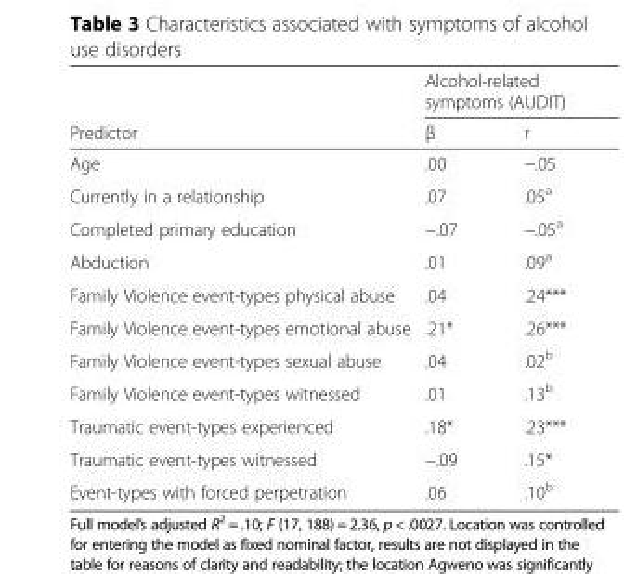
<table><thead><tr><td rowspan="2">Predictor</td><td colspan="2">Alcohol-related symptoms (AUDIT)</td></tr><tr><td>β</td><td>r</td></tr></thead><tbody><tr><td>Age</td><td>.00</td><td>−.05</td></tr><tr><td>Currently in a relationship</td><td>.07</td><td>.05<sup>a</sup></td></tr><tr><td>Completed primary education</td><td>−.07</td><td>−.05<sup>a</sup></td></tr><tr><td>Abduction</td><td>.01</td><td>.09<sup>a</sup></td></tr><tr><td>Family Violence event-types physical abuse</td><td>.04</td><td>.24***</td></tr><tr><td>Family Violence event-types emotional abuse</td><td>.21*</td><td>.26***</td></tr><tr><td>Family Violence event-types sexual abuse</td><td>.04</td><td>.02<sup>b</sup></td></tr><tr><td>Family Violence event-types witnessed</td><td>.01</td><td>.13<sup>b</sup></td></tr><tr><td>Traumatic event-types experienced</td><td>.18*</td><td>.23***</td></tr><tr><td>Traumatic event-types witnessed</td><td>−.09</td><td>.15*</td></tr><tr><td>Event-types with forced perpetration</td><td>.06</td><td>.10<sup>b</sup></td></tr></tbody></table>